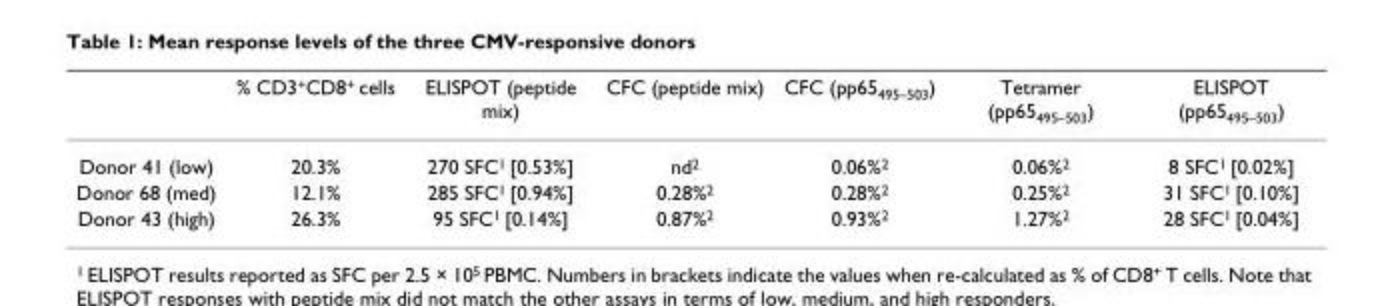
<table><thead><tr><td></td><td>% CD3<sup>+</sup>CD8<sup>+</sup> cells</td><td>ELISPOT (peptide mix)</td><td>CFC (peptide mix)</td><td>CFC (pp65<sub>495–503</sub>)</td><td>Tetramer (pp65<sub>495–503</sub>)</td><td>ELISPOT (pp65<sub>495–503</sub>)</td></tr></thead><tbody><tr><td>Donor 41 (low)</td><td>20.3%</td><td>270 SFC<sup>1</sup> [0.53%]</td><td>nd<sup>2</sup></td><td>0.06%<sup>2</sup></td><td>0.06%<sup>2</sup></td><td>8 SFC<sup>1</sup> [0.02%]</td></tr><tr><td>Donor 68 (med)</td><td>12.1%</td><td>285 SFC<sup>1</sup> [0.94%]</td><td>0.28%<sup>2</sup></td><td>0.28%<sup>2</sup></td><td>0.25%<sup>2</sup></td><td>31 SFC<sup>1</sup> [0.10%]</td></tr><tr><td>Donor 43 (high)</td><td>26.3%</td><td>95 SFC<sup>1</sup> [0.14%]</td><td>0.87%<sup>2</sup></td><td>0.93%<sup>2</sup></td><td>1.27%<sup>2</sup></td><td>28 SFC<sup>1</sup> [0.04%]</td></tr></tbody></table>